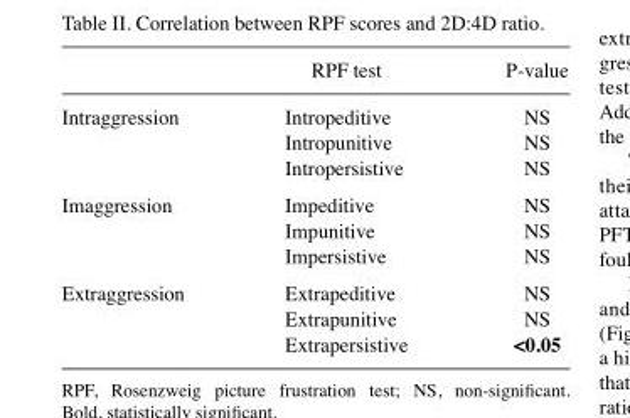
<table><thead><tr><td></td><td>RPF test</td><td>P-value</td></tr></thead><tbody><tr><td rowspan="3">Intraggression</td><td>Intropeditive</td><td>NS</td></tr><tr><td>Intropunitive</td><td>NS</td></tr><tr><td>Intropersistive</td><td>NS</td></tr><tr><td rowspan="3">Imaggression</td><td>Impeditive</td><td>NS</td></tr><tr><td>Impunitive</td><td>NS</td></tr><tr><td>Impersistive</td><td>NS</td></tr><tr><td rowspan="3">Extraggression</td><td>Extrapeditive</td><td>NS</td></tr><tr><td>Extrapunitive</td><td>NS</td></tr><tr><td>Extrapersistive</td><td>&lt;0.05</td></tr></tbody></table>